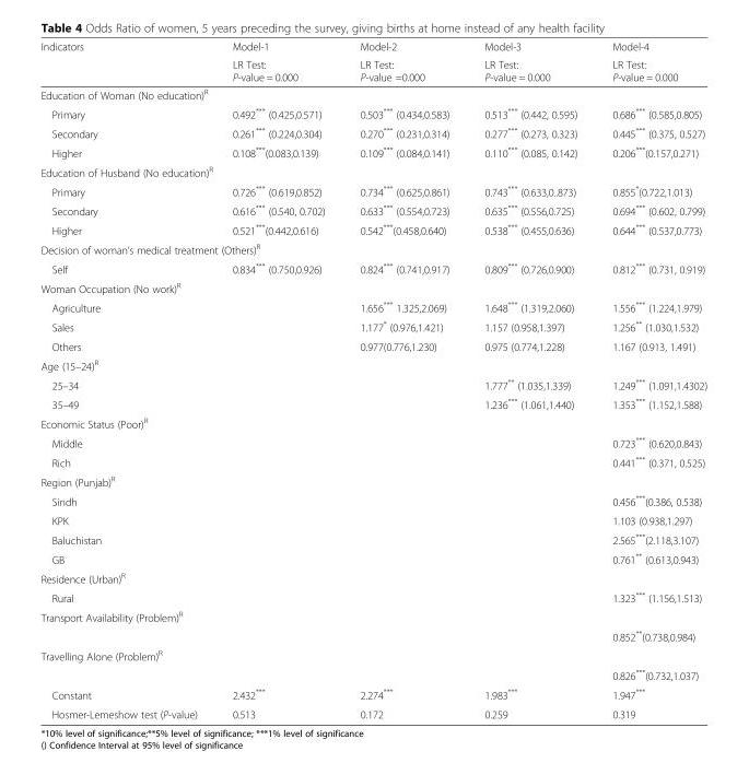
<table><thead><tr><td rowspan="2">Indicators</td><td rowspan="2">Model-1 LR Test: P-value = 0.000</td><td rowspan="2">Model-2 LR Test: P-value =0.000</td><td rowspan="2">Model-3 LR Test: P-value = 0.000</td><td rowspan="2">Model-4 LR Test: P-value = 0.000</td></tr><tr></tr></thead><tbody><tr><td colspan="5">Education of Woman (No education)<sup>R</sup></td></tr><tr><td>Primary</td><td>0.492*** (0.425,0.571)</td><td>0.503*** (0.434,0.583)</td><td>0.513*** (0.442, 0.595)</td><td>0.686*** (0.585,0.805)</td></tr><tr><td>Secondary</td><td>0.261*** (0.224,0.304)</td><td>0.270*** (0.231,0.314)</td><td>0.277*** (0.273, 0.323)</td><td>0.445*** (0.375, 0.527)</td></tr><tr><td>Higher</td><td>0.108***(0.083,0.139)</td><td>0.109*** (0.084,0.141)</td><td>0.110*** (0.085, 0.142)</td><td>0.206***(0.157,0.271)</td></tr><tr><td colspan="5">Education of Husband (No education)<sup>R</sup></td></tr><tr><td>Primary</td><td>0.726*** (0.619,0.852)</td><td>0.734*** (0.625,0.861)</td><td>0.743*** (0.633,0..873)</td><td>0.855*(0.722,1.013)</td></tr><tr><td>Secondary</td><td>0.616*** (0.540, 0.702)</td><td>0.633*** (0.554,0.723)</td><td>0.635*** (0.556,0.725)</td><td>0.694*** (0.602, 0.799)</td></tr><tr><td>Higher</td><td>0.521***(0.442,0.616)</td><td>0.542***(0.458,0.640)</td><td>0.538*** (0.455,0.636)</td><td>0.644*** (0.537,0.773)</td></tr><tr><td colspan="5">Decision of woman’s medical treatment (Others)<sup>R</sup></td></tr><tr><td>Self</td><td>0.834*** (0.750,0.926)</td><td>0.824*** (0.741,0.917)</td><td>0.809*** (0.726,0.900)</td><td>0.812*** (0.731, 0.919)</td></tr><tr><td colspan="5">Woman Occupation (No work)<sup>R</sup></td></tr><tr><td>Agriculture</td><td></td><td>1.656*** 1.325,2.069)</td><td>1.648*** (1.319,2.060)</td><td>1.556*** (1.224,1.979)</td></tr><tr><td>Sales</td><td></td><td>1.177* (0.976,1.421)</td><td>1.157 (0.958,1.397)</td><td>1.256** (1.030,1.532)</td></tr><tr><td>Others</td><td></td><td>0.977(0.776,1.230)</td><td>0.975 (0.774,1.228)</td><td>1.167 (0.913, 1.491)</td></tr><tr><td colspan="5">Age (15–24)<sup>R</sup></td></tr><tr><td>25–34</td><td></td><td></td><td>1.777** (1.035,1.339)</td><td>1.249*** (1.091,1.4302)</td></tr><tr><td>35–49</td><td></td><td></td><td>1.236*** (1.061,1.440)</td><td>1.353*** (1.152,1.588)</td></tr><tr><td colspan="5">Economic Status (Poor)<sup>R</sup></td></tr><tr><td>Middle</td><td></td><td></td><td></td><td>0.723*** (0.620,0.843)</td></tr><tr><td>Rich</td><td></td><td></td><td></td><td>0.441*** (0.371, 0.525)</td></tr><tr><td colspan="5">Region (Punjab)<sup>R</sup></td></tr><tr><td>Sindh</td><td></td><td></td><td></td><td>0.456***(0.386, 0.538)</td></tr><tr><td>KPK</td><td></td><td></td><td></td><td>1.103 (0.938,1.297)</td></tr><tr><td>Baluchistan</td><td></td><td></td><td></td><td>2.565***(2.118,3.107)</td></tr><tr><td>GB</td><td></td><td></td><td></td><td>0.761** (0.613,0.943)</td></tr><tr><td colspan="5">Residence (Urban)<sup>R</sup></td></tr><tr><td>Rural</td><td></td><td></td><td></td><td>1.323*** (1.156,1.513)</td></tr><tr><td colspan="5">Transport Availability (Problem)<sup>R</sup></td></tr><tr><td></td><td></td><td></td><td></td><td>0.852**(0.738,0.984)</td></tr><tr><td colspan="5">Travelling Alone (Problem)<sup>R</sup></td></tr><tr><td></td><td></td><td></td><td></td><td>0.826***(0.732,1.037)</td></tr><tr><td>Constant</td><td>2.432***</td><td>2.274***</td><td>1.983***</td><td>1.947***</td></tr><tr><td>Hosmer-Lemeshow test (P-value)</td><td>0.513</td><td>0.172</td><td>0.259</td><td>0.319</td></tr></tbody></table>